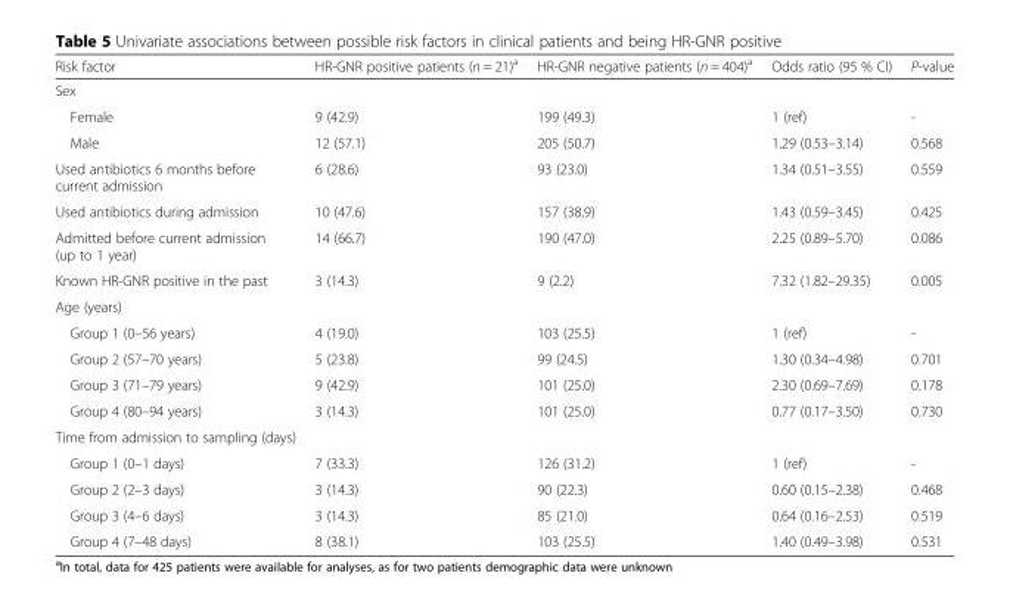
<table><thead><tr><td>Risk factor</td><td>HR-GNR positive patients (n = 21)<sup>a</sup></td><td>HR-GNR negative patients (n = 404)<sup>a</sup></td><td>Odds ratio (95 % CI)</td><td>P-value</td></tr></thead><tbody><tr><td colspan="5">Sex</td></tr><tr><td>Female</td><td>9 (42.9)</td><td>199 (49.3)</td><td>1 (ref)</td><td>-</td></tr><tr><td>Male</td><td>12 (57.1)</td><td>205 (50.7)</td><td>1.29 (0.53–3.14)</td><td>0.568</td></tr><tr><td>Used antibiotics 6 months before current admission</td><td>6 (28.6)</td><td>93 (23.0)</td><td>1.34 (0.51–3.55)</td><td>0.559</td></tr><tr><td>Used antibiotics during admission</td><td>10 (47.6)</td><td>157 (38.9)</td><td>1.43 (0.59–3.45)</td><td>0.425</td></tr><tr><td>Admitted before current admission (up to 1 year)</td><td>14 (66.7)</td><td>190 (47.0)</td><td>2.25 (0.89–5.70)</td><td>0.086</td></tr><tr><td>Known HR-GNR positive in the past</td><td>3 (14.3)</td><td>9 (2.2)</td><td>7.32 (1.82–29.35)</td><td>0.005</td></tr><tr><td colspan="5">Age (years)</td></tr><tr><td>Group 1 (0–56 years)</td><td>4 (19.0)</td><td>103 (25.5)</td><td>1 (ref)</td><td>-</td></tr><tr><td>Group 2 (57–70 years)</td><td>5 (23.8)</td><td>99 (24.5)</td><td>1.30 (0.34–4.98)</td><td>0.701</td></tr><tr><td>Group 3 (71–79 years)</td><td>9 (42.9)</td><td>101 (25.0)</td><td>2.30 (0.69–7.69)</td><td>0.178</td></tr><tr><td>Group 4 (80–94 years)</td><td>3 (14.3)</td><td>101 (25.0)</td><td>0.77 (0.17–3.50)</td><td>0.730</td></tr><tr><td colspan="5">Time from admission to sampling (days)</td></tr><tr><td>Group 1 (0–1 days)</td><td>7 (33.3)</td><td>126 (31.2)</td><td>1 (ref)</td><td>-</td></tr><tr><td>Group 2 (2–3 days)</td><td>3 (14.3)</td><td>90 (22.3)</td><td>0.60 (0.15–2.38)</td><td>0.468</td></tr><tr><td>Group 3 (4–6 days)</td><td>3 (14.3)</td><td>85 (21.0)</td><td>0.64 (0.16–2.53)</td><td>0.519</td></tr><tr><td>Group 4 (7–48 days)</td><td>8 (38.1)</td><td>103 (25.5)</td><td>1.40 (0.49–3.98)</td><td>0.531</td></tr></tbody></table>